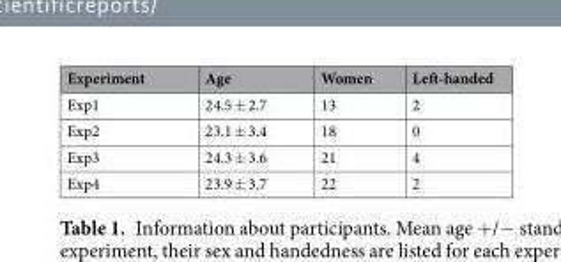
<table><thead><tr><td>Experiment</td><td>Age</td><td>Women</td><td>Left-handed</td></tr></thead><tbody><tr><td>Exp1</td><td>24.5 ± 2.7</td><td>13</td><td>2</td></tr><tr><td>Exp2</td><td>23.1 ± 3.4</td><td>18</td><td>0</td></tr><tr><td>Exp3</td><td>24.3 ± 3.6</td><td>21</td><td>4</td></tr><tr><td>Exp4</td><td>23.9 ± 3.7</td><td>22</td><td>2</td></tr></tbody></table>